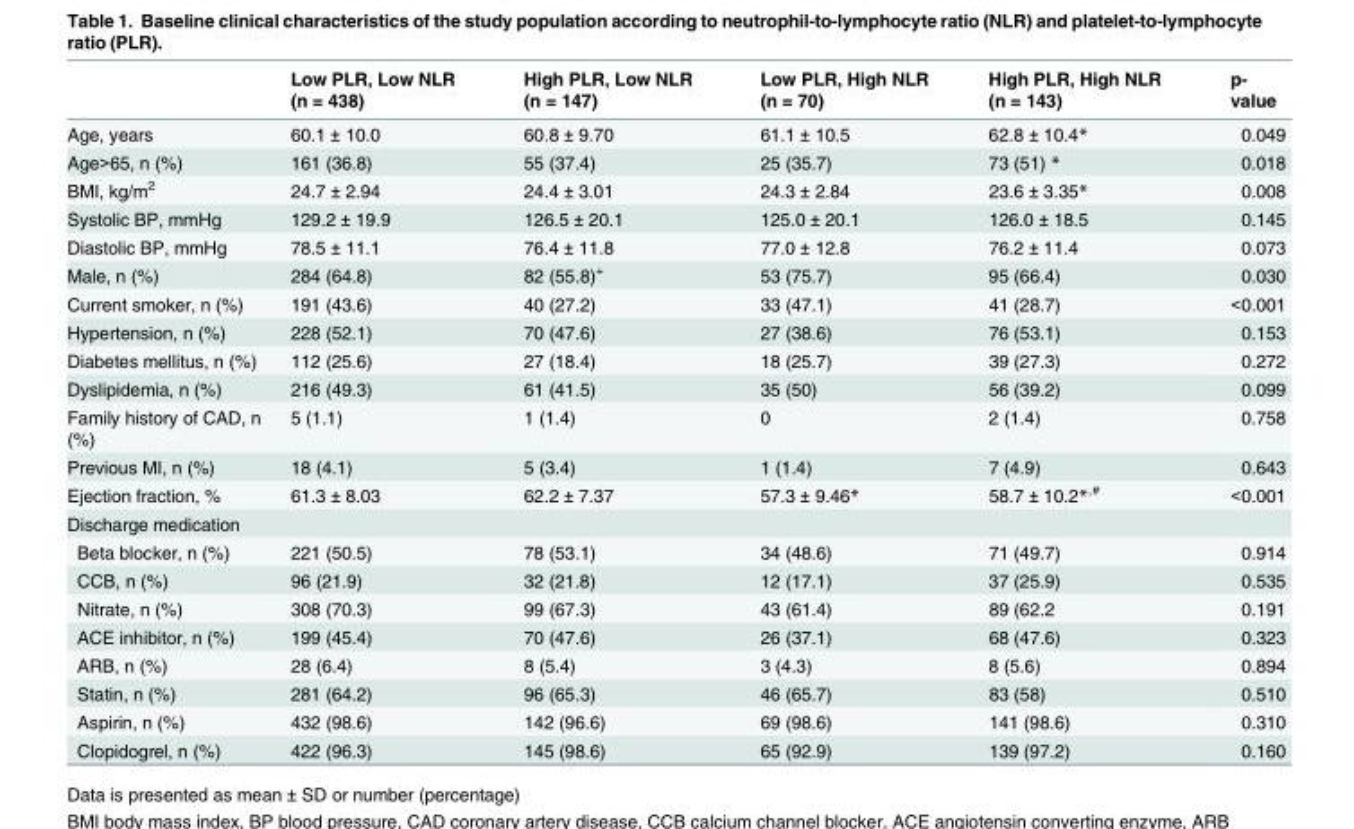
<table><thead><tr><td></td><td>Low PLR, Low NLR (n = 438)</td><td>High PLR, Low NLR (n = 147)</td><td>Low PLR, High NLR (n = 70)</td><td>High PLR, High NLR (n = 143)</td><td>p- value</td></tr></thead><tbody><tr><td>Age, years</td><td>60.1 ± 10.0</td><td>60.8 ± 9.70</td><td>61.1 ± 10.5</td><td>62.8 ± 10.4*</td><td>0.049</td></tr><tr><td>Age&gt;65, n (%)</td><td>161 (36.8)</td><td>55 (37.4)</td><td>25 (35.7)</td><td>73 (51) *</td><td>0.018</td></tr><tr><td>BMI, kg/m<sup>2</sup></td><td>24.7 ± 2.94</td><td>24.4 ± 3.01</td><td>24.3 ± 2.84</td><td>23.6 ± 3.35*</td><td>0.008</td></tr><tr><td>Systolic BP, mmHg</td><td>129.2 ± 19.9</td><td>126.5 ± 20.1</td><td>125.0 ± 20.1</td><td>126.0 ± 18.5</td><td>0.145</td></tr><tr><td>Diastolic BP, mmHg</td><td>78.5 ± 11.1</td><td>76.4 ± 11.8</td><td>77.0 ± 12.8</td><td>76.2 ± 11.4</td><td>0.073</td></tr><tr><td>Male, n (%)</td><td>284 (64.8)</td><td>82 (55.8)<sup>+</sup></td><td>53 (75.7)</td><td>95 (66.4)</td><td>0.030</td></tr><tr><td>Current smoker, n (%)</td><td>191 (43.6)</td><td>40 (27.2)</td><td>33 (47.1)</td><td>41 (28.7)</td><td>&lt;0.001</td></tr><tr><td>Hypertension, n (%)</td><td>228 (52.1)</td><td>70 (47.6)</td><td>27 (38.6)</td><td>76 (53.1)</td><td>0.153</td></tr><tr><td>Diabetes mellitus, n (%)</td><td>112 (25.6)</td><td>27 (18.4)</td><td>18 (25.7)</td><td>39 (27.3)</td><td>0.272</td></tr><tr><td>Dyslipidemia, n (%)</td><td>216 (49.3)</td><td>61 (41.5)</td><td>35 (50)</td><td>56 (39.2)</td><td>0.099</td></tr><tr><td>Family history of CAD, n (%)</td><td>5 (1.1)</td><td>1 (1.4)</td><td>0</td><td>2 (1.4)</td><td>0.758</td></tr><tr><td>Previous MI, n (%)</td><td>18 (4.1)</td><td>5 (3.4)</td><td>1 (1.4)</td><td>7 (4.9)</td><td>0.643</td></tr><tr><td>Ejection fraction, %</td><td>61.3 ± 8.03</td><td>62.2 ± 7.37</td><td>57.3 ± 9.46*</td><td>58.7 ± 10.2*<sup>,#</sup></td><td>&lt;0.001</td></tr><tr><td colspan="6">Discharge medication</td></tr><tr><td>Beta blocker, n (%)</td><td>221 (50.5)</td><td>78 (53.1)</td><td>34 (48.6)</td><td>71 (49.7)</td><td>0.914</td></tr><tr><td>CCB, n (%)</td><td>96 (21.9)</td><td>32 (21.8)</td><td>12 (17.1)</td><td>37 (25.9)</td><td>0.535</td></tr><tr><td>Nitrate, n (%)</td><td>308 (70.3)</td><td>99 (67.3)</td><td>43 (61.4)</td><td>89 (62.2</td><td>0.191</td></tr><tr><td>ACE inhibitor, n (%)</td><td>199 (45.4)</td><td>70 (47.6)</td><td>26 (37.1)</td><td>68 (47.6)</td><td>0.323</td></tr><tr><td>ARB, n (%)</td><td>28 (6.4)</td><td>8 (5.4)</td><td>3 (4.3)</td><td>8 (5.6)</td><td>0.894</td></tr><tr><td>Statin, n (%)</td><td>281 (64.2)</td><td>96 (65.3)</td><td>46 (65.7)</td><td>83 (58)</td><td>0.510</td></tr><tr><td>Aspirin, n (%)</td><td>432 (98.6)</td><td>142 (96.6)</td><td>69 (98.6)</td><td>141 (98.6)</td><td>0.310</td></tr><tr><td>Clopidogrel, n (%)</td><td>422 (96.3)</td><td>145 (98.6)</td><td>65 (92.9)</td><td>139 (97.2)</td><td>0.160</td></tr></tbody></table>